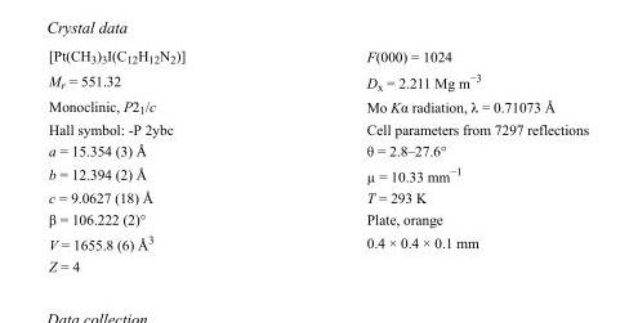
<table><tbody><tr><td>[Pt(CH<sub>3</sub>)<sub>3</sub>I(C<sub>12</sub>H<sub>12</sub>N<sub>2</sub>)]</td><td>F(000) = 1024</td></tr><tr><td>M<sub>r</sub> = 551.32</td><td>D<sub>x</sub> = 2.211 Mg m<sup>−3</sup></td></tr><tr><td>Monoclinic, P2<sub>1</sub>/c</td><td>Mo Kα radiation, λ = 0.71073 Å</td></tr><tr><td>Hall symbol: -P 2ybc</td><td>Cell parameters from 7297 reflections</td></tr><tr><td>a = 15.354 (3) Å</td><td>θ = 2.8–27.6°</td></tr><tr><td>b = 12.394 (2) Å</td><td>µ = 10.33 mm<sup>−1</sup></td></tr><tr><td>c = 9.0627 (18) Å</td><td>T = 293 K</td></tr><tr><td>β = 106.222 (2)°</td><td>Plate, orange</td></tr><tr><td>V = 1655.8 (6) Å<sup>3</sup></td><td>0.4 × 0.4 × 0.1 mm</td></tr><tr><td>Z = 4</td><td></td></tr></tbody></table>